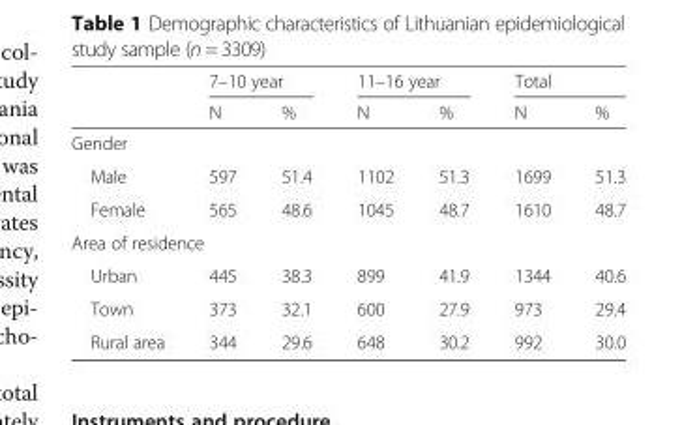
<table><thead><tr><td rowspan="2"></td><td colspan="2">7–10 year</td><td colspan="2">11–16 year</td><td colspan="2">Total</td></tr><tr><td>N</td><td>%</td><td>N</td><td>%</td><td>N</td><td>%</td></tr></thead><tbody><tr><td colspan="7">Gender</td></tr><tr><td>Male</td><td>597</td><td>51.4</td><td>1102</td><td>51.3</td><td>1699</td><td>51.3</td></tr><tr><td>Female</td><td>565</td><td>48.6</td><td>1045</td><td>48.7</td><td>1610</td><td>48.7</td></tr><tr><td colspan="7">Area of residence</td></tr><tr><td>Urban</td><td>445</td><td>38.3</td><td>899</td><td>41.9</td><td>1344</td><td>40.6</td></tr><tr><td>Town</td><td>373</td><td>32.1</td><td>600</td><td>27.9</td><td>973</td><td>29.4</td></tr><tr><td>Rural area</td><td>344</td><td>29.6</td><td>648</td><td>30.2</td><td>992</td><td>30.0</td></tr></tbody></table>